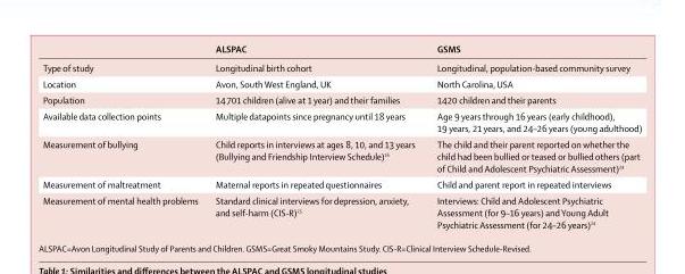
<table><thead><tr><td></td><td>ALSPAC</td><td>GSMS</td></tr></thead><tbody><tr><td>Type of study</td><td>Longitudinal birth cohort</td><td>Longitudinal, population-based community survey</td></tr><tr><td>Location</td><td>Avon, South West England, UK</td><td>North Carolina, USA</td></tr><tr><td>Population</td><td>14 701 children (alive at 1 year) and their families</td><td>1420 children and their parents</td></tr><tr><td>Available data collection points</td><td>Multiple datapoints since pregnancy until 18 years</td><td>Age 9 years through 16 years (early childhood), 19 years, 21 years, and 24–26 years (young adulthood)</td></tr><tr><td>Measurement of bullying</td><td>Child reports in interviews at ages 8, 10, and 13 years (Bullying and Friendship Interview Schedule)<sup>16</sup></td><td>The child and their parent reported on whether the child had been bullied or teased or bullied others (part of Child and Adolescent Psychiatric Assessment)<sup>24</sup></td></tr><tr><td>Measurement of maltreatment</td><td>Maternal reports in repeated questionnaires</td><td>Child and parent report in repeated interviews</td></tr><tr><td>Measurement of mental health problems</td><td>Standard clinical interviews for depression, anxiety, and self-harm (CIS-R)<sup>25</sup></td><td>Interviews: Child and Adolescent Psychiatric Assessment (for 9–16 years) and Young Adult Psychiatric Assessment (for 24–26 years)<sup>24</sup></td></tr></tbody></table>